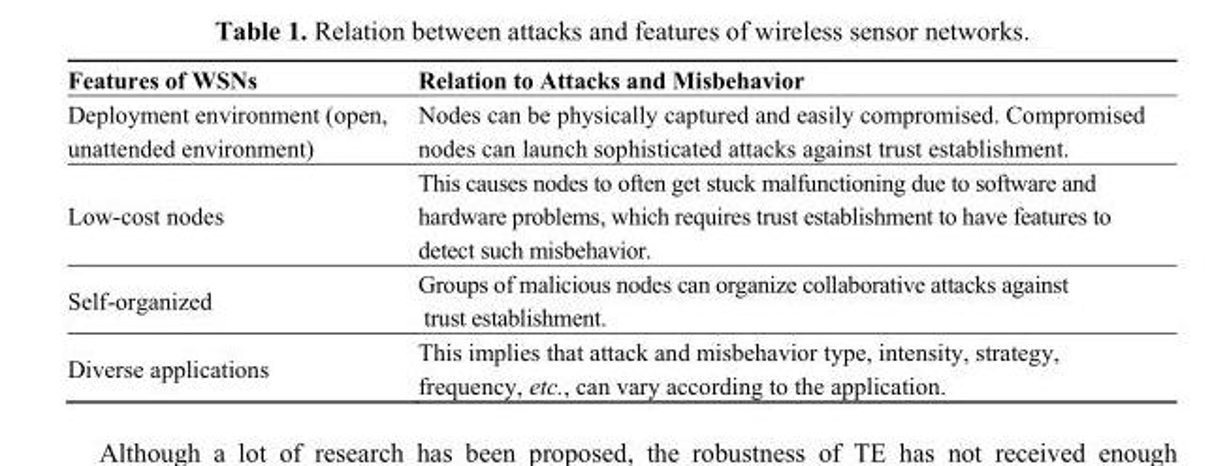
<table><thead><tr><td>Features of WSNs</td><td>Relation to Attacks and Misbehavior</td></tr></thead><tbody><tr><td>Deployment environment (open, unattended environment)</td><td>Nodes can be physically captured and easily compromised. Compromised nodes can launch sophisticated attacks against trust establishment.</td></tr><tr><td>Low-cost nodes</td><td>This causes nodes to often get stuck malfunctioning due to software and hardware problems, which requires trust establishment to have features to detect such misbehavior.</td></tr><tr><td>Self-organized</td><td>Groups of malicious nodes can organize collaborative attacks against trust establishment.</td></tr><tr><td>Diverse applications</td><td>This implies that attack and misbehavior type, intensity, strategy, frequency, etc., can vary according to the application.</td></tr></tbody></table>